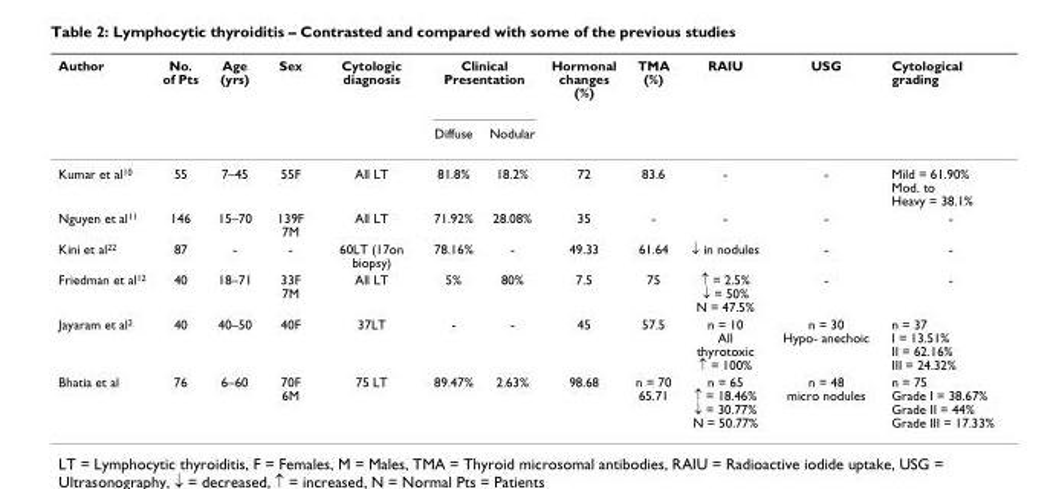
<table><thead><tr><td rowspan="2">Author</td><td rowspan="2">No. of Pts</td><td rowspan="2">Age (yrs)</td><td rowspan="2">Sex</td><td rowspan="2">Cytologic diagnosis</td><td colspan="2">Clinical Presentation</td><td rowspan="2">Hormonal changes (%)</td><td rowspan="2">TMA (%)</td><td rowspan="2">RAIU</td><td rowspan="2">USG</td><td rowspan="2">Cytological grading</td></tr><tr><td>Diffuse</td><td>Nodular</td></tr></thead><tbody><tr><td>Kumar et al<sup>10</sup></td><td>55</td><td>7–45</td><td>55F</td><td>All LT</td><td>81.8%</td><td>18.2%</td><td>72</td><td>83.6</td><td>-</td><td>-</td><td>Mild = 61.90% Mod. to Heavy = 38.1%</td></tr><tr><td>Nguyen et al<sup>11</sup></td><td>146</td><td>15–70</td><td>139F 7M</td><td>All LT</td><td>71.92%</td><td>28.08%</td><td>35</td><td>-</td><td>-</td><td>-</td><td>-</td></tr><tr><td>Kini et al<sup>22</sup></td><td>87</td><td>-</td><td>-</td><td>60LT (17on biopsy)</td><td>78.16%</td><td>-</td><td>49.33</td><td>61.64</td><td>↓ in nodules</td><td>-</td><td>-</td></tr><tr><td>Friedman et al<sup>12</sup></td><td>40</td><td>18–71</td><td>33F 7M</td><td>All LT</td><td>5%</td><td>80%</td><td>7.5</td><td>75</td><td>↑ = 2.5% ↓ = 50% N = 47.5%</td><td>-</td><td>-</td></tr><tr><td>Jayaram et al<sup>2</sup></td><td>40</td><td>40–50</td><td>40F</td><td>37LT</td><td>-</td><td>-</td><td>45</td><td>57.5</td><td>n = 10 All thyrotoxic ↑ = 100%</td><td>n = 30 Hypo- anechoic</td><td>n = 37 I = 13.51% II = 62.16% III = 24.32%</td></tr><tr><td>Bhatia et al</td><td>76</td><td>6–60</td><td>70F 6M</td><td>75 LT</td><td>89.47%</td><td>2.63%</td><td>98.68</td><td>n = 70 65.71</td><td>n = 65 ↑ = 18.46% ↓ = 30.77% N = 50.77%</td><td>n = 48 micro nodules</td><td>n = 75 Grade I = 38.67% Grade II = 44% Grade III = 17.33%</td></tr></tbody></table>